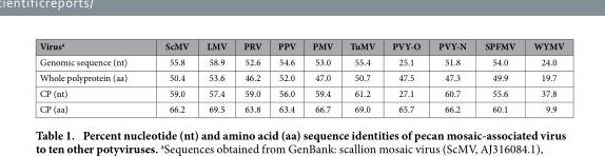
<table><thead><tr><td>Virus<sup>a</sup></td><td>ScMV</td><td>LMV</td><td>PRV</td><td>PPV</td><td>PMV</td><td>TuMV</td><td>PVY-O</td><td>PVY-N</td><td>SPFMV</td><td>WYMV</td></tr></thead><tbody><tr><td>Genomic sequence (nt)</td><td>55.8</td><td>58.9</td><td>52.6</td><td>54.6</td><td>53.0</td><td>55.4</td><td>25.1</td><td>51.8</td><td>54.0</td><td>24.0</td></tr><tr><td>Whole polyprotein (aa)</td><td>50.4</td><td>53.6</td><td>46.2</td><td>52.0</td><td>47.0</td><td>50.7</td><td>47.5</td><td>47.3</td><td>49.9</td><td>19.7</td></tr><tr><td>CP (nt)</td><td>59.0</td><td>57.4</td><td>59.0</td><td>56.0</td><td>59.4</td><td>61.2</td><td>27.1</td><td>60.7</td><td>55.6</td><td>37.8</td></tr><tr><td>CP (aa)</td><td>66.2</td><td>69.5</td><td>63.8</td><td>63.4</td><td>66.7</td><td>69.0</td><td>65.7</td><td>66.2</td><td>60.1</td><td>9.9</td></tr></tbody></table>